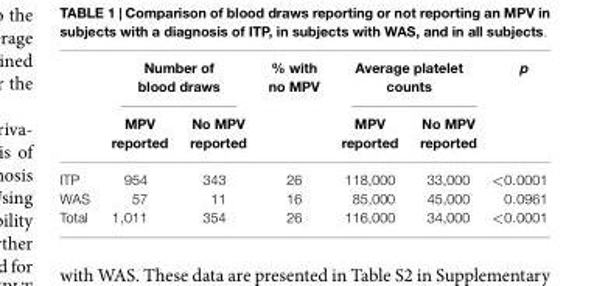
<table><thead><tr><td rowspan="2"></td><td colspan="2">Number of blood draws</td><td rowspan="2">% with no MPV</td><td colspan="2">Average platelet counts</td><td rowspan="2">p</td></tr><tr><td>MPV reported</td><td>No MPV reported</td><td>MPV reported</td><td>No MPV reported</td></tr></thead><tbody><tr><td>ITP</td><td>954</td><td>343</td><td>26</td><td>118,000</td><td>33,000</td><td>&lt;0.0001</td></tr><tr><td>WAS</td><td>57</td><td>11</td><td>16</td><td>85,000</td><td>45,000</td><td>0.0961</td></tr><tr><td>Total</td><td>1,011</td><td>354</td><td>26</td><td>116,000</td><td>34,000</td><td>&lt;0.0001</td></tr></tbody></table>